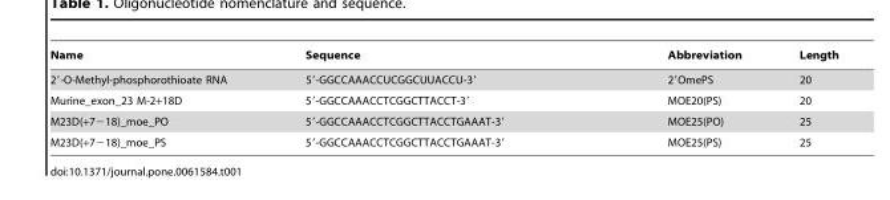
<table><thead><tr><td>Name</td><td>Sequence</td><td>Abbreviation</td><td>Length</td></tr></thead><tbody><tr><td>2′-O-Methyl-phosphorothioate RNA</td><td>5′-GGCCAAACCUCGGCUUACCU-3′</td><td>2′OmePS</td><td>20</td></tr><tr><td>Murine_exon_23 M-2+18D</td><td>5′-GGCCAAACCTCGGCTTACCT-3′</td><td>MOE20(PS)</td><td>20</td></tr><tr><td>M23D(+7−18)_moe_PO</td><td>5′-GGCCAAACCTCGGCTTACCTGAAAT-3′</td><td>MOE25(PO)</td><td>25</td></tr><tr><td>M23D(+7−18)_moe_PS</td><td>5′-GGCCAAACCTCGGCTTACCTGAAAT-3′</td><td>MOE25(PS)</td><td>25</td></tr></tbody></table>